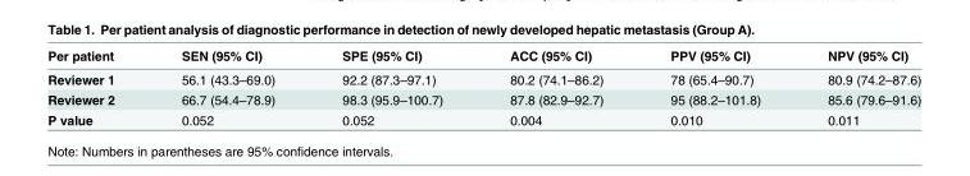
<table><thead><tr><td>Per patient</td><td>SEN (95% CI)</td><td>SPE (95% CI)</td><td>ACC (95% CI)</td><td>PPV (95% CI)</td><td>NPV (95% CI)</td></tr></thead><tbody><tr><td>Reviewer 1</td><td>56.1 (43.3–69.0)</td><td>92.2 (87.3–97.1)</td><td>80.2 (74.1–86.2)</td><td>78 (65.4–90.7)</td><td>80.9 (74.2–87.6)</td></tr><tr><td>Reviewer 2</td><td>66.7 (54.4–78.9)</td><td>98.3 (95.9–100.7)</td><td>87.8 (82.9–92.7)</td><td>95 (88.2–101.8)</td><td>85.6 (79.6–91.6)</td></tr><tr><td>P value</td><td>0.052</td><td>0.052</td><td>0.004</td><td>0.010</td><td>0.011</td></tr></tbody></table>